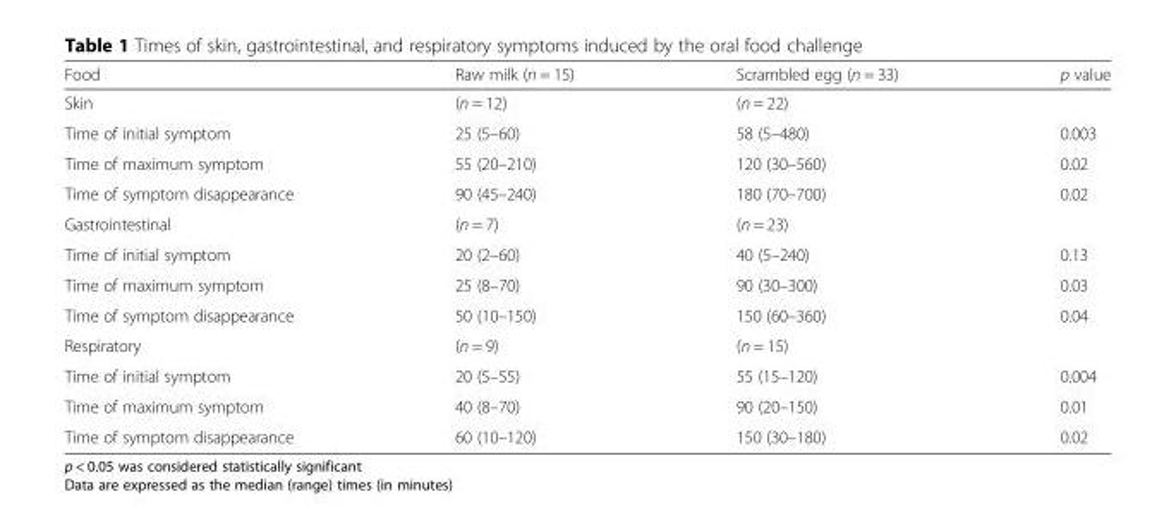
<table><thead><tr><td>Food</td><td>Raw milk (n = 15)</td><td>Scrambled egg (n = 33)</td><td>p value</td></tr></thead><tbody><tr><td>Skin</td><td>(n = 12)</td><td>(n = 22)</td><td></td></tr><tr><td>Time of initial symptom</td><td>25 (5–60)</td><td>58 (5–480)</td><td>0.003</td></tr><tr><td>Time of maximum symptom</td><td>55 (20–210)</td><td>120 (30–560)</td><td>0.02</td></tr><tr><td>Time of symptom disappearance</td><td>90 (45–240)</td><td>180 (70–700)</td><td>0.02</td></tr><tr><td>Gastrointestinal</td><td>(n = 7)</td><td>(n = 23)</td><td></td></tr><tr><td>Time of initial symptom</td><td>20 (2–60)</td><td>40 (5–240)</td><td>0.13</td></tr><tr><td>Time of maximum symptom</td><td>25 (8–70)</td><td>90 (30–300)</td><td>0.03</td></tr><tr><td>Time of symptom disappearance</td><td>50 (10–150)</td><td>150 (60–360)</td><td>0.04</td></tr><tr><td>Respiratory</td><td>(n = 9)</td><td>(n = 15)</td><td></td></tr><tr><td>Time of initial symptom</td><td>20 (5–55)</td><td>55 (15–120)</td><td>0.004</td></tr><tr><td>Time of maximum symptom</td><td>40 (8–70)</td><td>90 (20–150)</td><td>0.01</td></tr><tr><td>Time of symptom disappearance</td><td>60 (10–120)</td><td>150 (30–180)</td><td>0.02</td></tr></tbody></table>